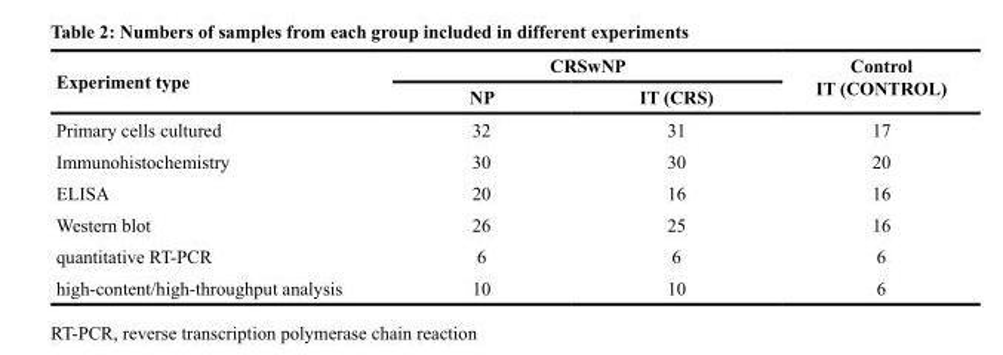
<table><thead><tr><td rowspan="2">Experiment type</td><td colspan="2">CRSwNP</td><td rowspan="2">Control IT (CONTROL)</td></tr><tr><td>NP</td><td>IT (CRS)</td></tr></thead><tbody><tr><td>Primary cells cultured</td><td>32</td><td>31</td><td>17</td></tr><tr><td>Immunohistochemistry</td><td>30</td><td>30</td><td>20</td></tr><tr><td>ELISA</td><td>20</td><td>16</td><td>16</td></tr><tr><td>Western blot</td><td>26</td><td>25</td><td>16</td></tr><tr><td>quantitative RT-PCR</td><td>6</td><td>6</td><td>6</td></tr><tr><td>high-content/high-throughput analysis</td><td>10</td><td>10</td><td>6</td></tr></tbody></table>